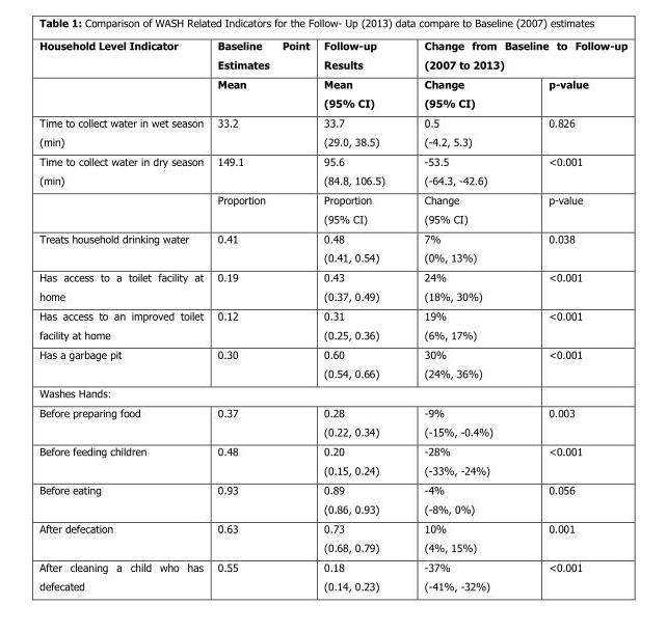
<table><thead><tr><td rowspan="2">Household Level Indicator</td><td rowspan="2">Baseline Point Estimates Mean</td><td rowspan="2">Follow-up Results Mean (95% CI)</td><td colspan="2">Change from Baseline to Follow-up (2007 to 2013)</td></tr><tr><td>Change (95% CI)</td><td>p-value</td></tr></thead><tbody><tr><td>Time to collect water in wet season (min)</td><td>33.2</td><td>33.7 (29.0, 38.5)</td><td>0.5 (-4.2, 5.3)</td><td>0.826</td></tr><tr><td rowspan="2">Time to collect water in dry season (min)</td><td>149.1</td><td>95.6 (84.8, 106.5)</td><td>-53.5 (-64.3, -42.6)</td><td>&lt;0.001</td></tr><tr><td>Proportion</td><td>Proportion (95% CI)</td><td>Change (95% CI)</td><td>p-value</td></tr><tr><td>Treats household drinking water</td><td>0.41</td><td>0.48 (0.41, 0.54)</td><td>7% (0%, 13%)</td><td>0.038</td></tr><tr><td>Has access to a toilet facility at home</td><td>0.19</td><td>0.43 (0.37, 0.49)</td><td>24% (18%, 30%)</td><td>&lt;0.001</td></tr><tr><td>Has access to an improved toilet facility at home</td><td>0.12</td><td>0.31 (0.25, 0.36)</td><td>19% (6%, 17%)</td><td>&lt;0.001</td></tr><tr><td>Has a garbage pit</td><td>0.30</td><td>0.60 (0.54, 0.66)</td><td>30% (24%, 36%)</td><td>&lt;0.001</td></tr><tr><td colspan="5">Washes Hands:</td></tr><tr><td>Before preparing food</td><td>0.37</td><td>0.28 (0.22, 0.34)</td><td>-9% (-15%, -0.4%)</td><td>0.003</td></tr><tr><td>Before feeding children</td><td>0.48</td><td>0.20 (0.15, 0.24)</td><td>-28% (-33%, -24%)</td><td>&lt;0.001</td></tr><tr><td>Before eating</td><td>0.93</td><td>0.89 (0.86, 0.93)</td><td>-4% (-8%, 0%)</td><td>0.056</td></tr><tr><td>After defecation</td><td>0.63</td><td>0.73 (0.68, 0.79)</td><td>10% (4%, 15%)</td><td>0.001</td></tr><tr><td>After cleaning a child who has defecated</td><td>0.55</td><td>0.18 (0.14, 0.23)</td><td>-37% (-41%, -32%)</td><td>&lt;0.001</td></tr></tbody></table>